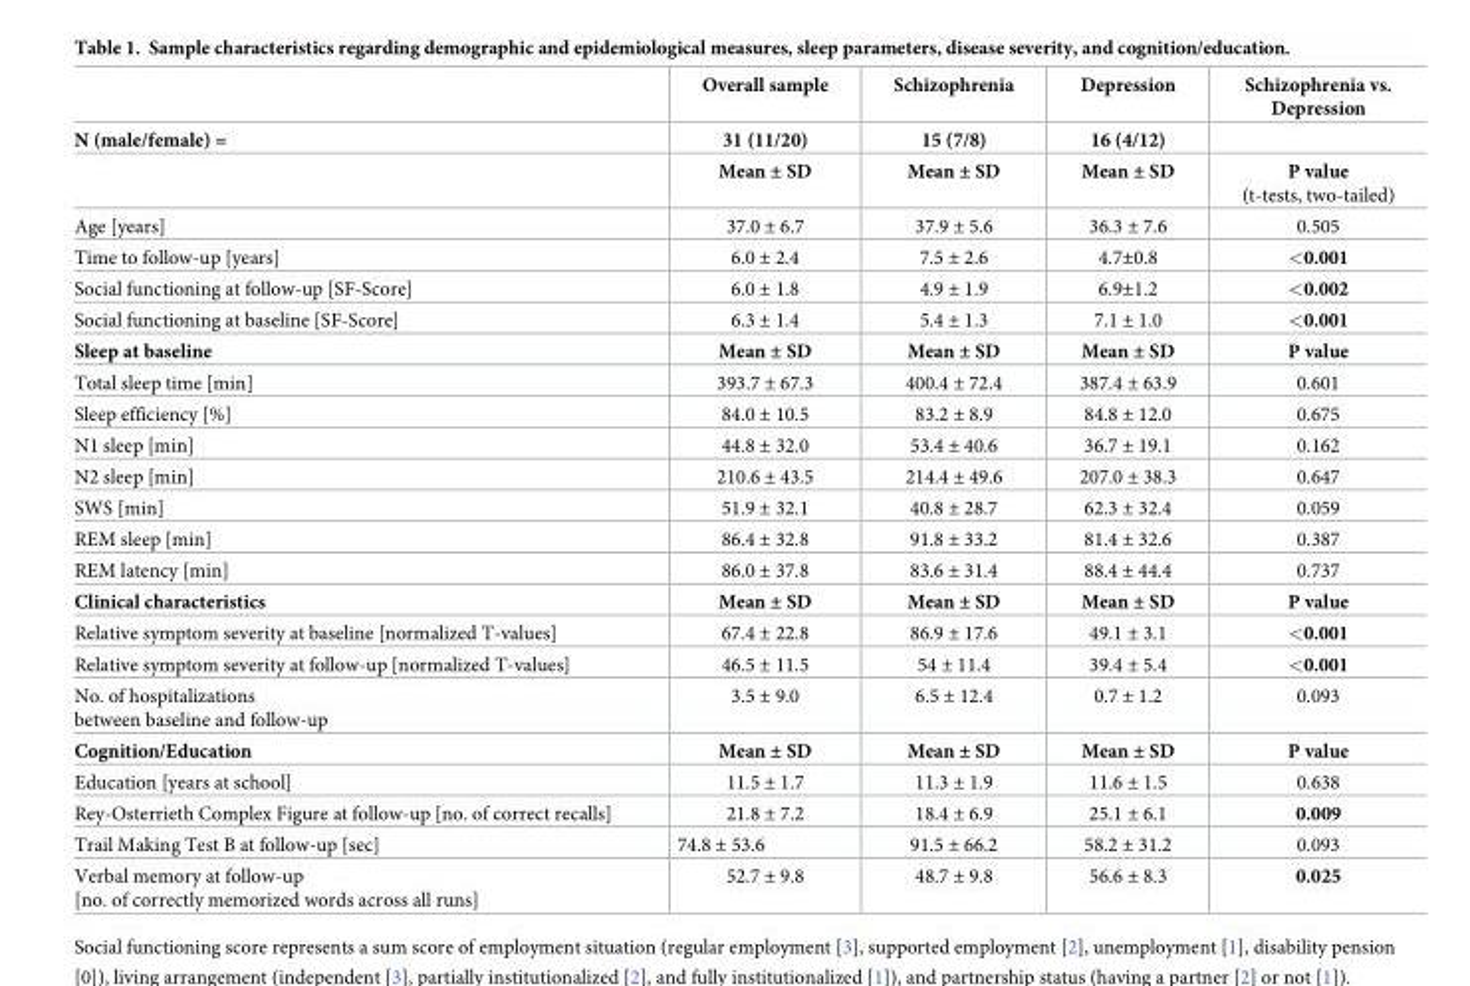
<table><thead><tr><td rowspan="2">N (male/female) =</td><td rowspan="2">Overall sample 31 (11/20)</td><td rowspan="2">Schizophrenia 15 (7/8)</td><td rowspan="2">Depression 16 (4/12)</td><td rowspan="2">Schizophrenia vs. Depression</td></tr><tr></tr></thead><tbody><tr><td></td><td>Mean ± SD</td><td>Mean ± SD</td><td>Mean ± SD</td><td>P value (t-tests, two-tailed)</td></tr><tr><td>Age [years]</td><td>37.0 ± 6.7</td><td>37.9 ± 5.6</td><td>36.3 ± 7.6</td><td>0.505</td></tr><tr><td>Time to follow-up [years]</td><td>6.0 ± 2.4</td><td>7.5 ± 2.6</td><td>4.7±0.8</td><td>&lt;0.001</td></tr><tr><td>Social functioning at follow-up [SF-Score]</td><td>6.0 ± 1.8</td><td>4.9 ± 1.9</td><td>6.9±1.2</td><td>&lt;0.002</td></tr><tr><td>Social functioning at baseline [SF-Score]</td><td>6.3 ± 1.4</td><td>5.4 ± 1.3</td><td>7.1 ± 1.0</td><td>&lt;0.001</td></tr><tr><td>Sleep at baseline</td><td>Mean ± SD</td><td>Mean ± SD</td><td>Mean ± SD</td><td>P value</td></tr><tr><td>Total sleep time [min]</td><td>393.7 ± 67.3</td><td>400.4 ± 72.4</td><td>387.4 ± 63.9</td><td>0.601</td></tr><tr><td>Sleep efficiency [%]</td><td>84.0 ± 10.5</td><td>83.2 ± 8.9</td><td>84.8 ± 12.0</td><td>0.675</td></tr><tr><td>N1 sleep [min]</td><td>44.8 ± 32.0</td><td>53.4 ± 40.6</td><td>36.7 ± 19.1</td><td>0.162</td></tr><tr><td>N2 sleep [min]</td><td>210.6 ± 43.5</td><td>214.4 ± 49.6</td><td>207.0 ± 38.3</td><td>0.647</td></tr><tr><td>SWS [min]</td><td>51.9 ± 32.1</td><td>40.8 ± 28.7</td><td>62.3 ± 32.4</td><td>0.059</td></tr><tr><td>REM sleep [min]</td><td>86.4 ± 32.8</td><td>91.8 ± 33.2</td><td>81.4 ± 32.6</td><td>0.387</td></tr><tr><td>REM latency [min]</td><td>86.0 ± 37.8</td><td>83.6 ± 31.4</td><td>88.4 ± 44.4</td><td>0.737</td></tr><tr><td>Clinical characteristics</td><td>Mean ± SD</td><td>Mean ± SD</td><td>Mean ± SD</td><td>P value</td></tr><tr><td>Relative symptom severity at baseline [normalized T-values]</td><td>67.4 ± 22.8</td><td>86.9 ± 17.6</td><td>49.1 ± 3.1</td><td>&lt;0.001</td></tr><tr><td>Relative symptom severity at follow-up [normalized T-values]</td><td>46.5 ± 11.5</td><td>54 ± 11.4</td><td>39.4 ± 5.4</td><td>&lt;0.001</td></tr><tr><td>No. of hospitalizations between baseline and follow-up</td><td>3.5 ± 9.0</td><td>6.5 ± 12.4</td><td>0.7 ± 1.2</td><td>0.093</td></tr><tr><td>Cognition/Education</td><td>Mean ± SD</td><td>Mean ± SD</td><td>Mean ± SD</td><td>P value</td></tr><tr><td>Education [years at school]</td><td>11.5 ± 1.7</td><td>11.3 ± 1.9</td><td>11.6 ± 1.5</td><td>0.638</td></tr><tr><td>Rey-Osterrieth Complex Figure at follow-up [no. of correct recalls]</td><td>21.8 ± 7.2</td><td>18.4 ± 6.9</td><td>25.1 ± 6.1</td><td>0.009</td></tr><tr><td>Trail Making Test B at follow-up [sec]</td><td>74.8 ± 53.6</td><td>91.5 ± 66.2</td><td>58.2 ± 31.2</td><td>0.093</td></tr><tr><td>Verbal memory at follow-up [no. of correctly memorized words across all runs]</td><td>52.7 ± 9.8</td><td>48.7 ± 9.8</td><td>56.6 ± 8.3</td><td>0.025</td></tr></tbody></table>